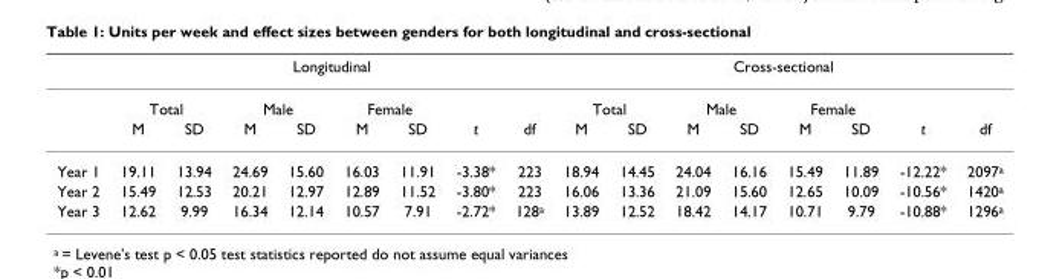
<table><thead><tr><td rowspan="3"></td><td colspan="8">Longitudinal</td><td colspan="8">Cross-sectional</td></tr><tr><td colspan="2">Total</td><td colspan="2">Male</td><td colspan="2">Female</td><td rowspan="2">t</td><td rowspan="2">df</td><td colspan="2">Total</td><td colspan="2">Male</td><td colspan="2">Female</td><td rowspan="2">t</td><td rowspan="2">df</td></tr><tr><td>M</td><td>SD</td><td>M</td><td>SD</td><td>M</td><td>SD</td><td>M</td><td>SD</td><td>M</td><td>SD</td><td>M</td><td>SD</td></tr></thead><tbody><tr><td>Year 1</td><td>19.11</td><td>13.94</td><td>24.69</td><td>15.60</td><td>16.03</td><td>11.91</td><td>-3.38*</td><td>223</td><td>18.94</td><td>14.45</td><td>24.04</td><td>16.16</td><td>15.49</td><td>11.89</td><td>-12.22*</td><td>2097<sup>a</sup></td></tr><tr><td>Year 2</td><td>15.49</td><td>12.53</td><td>20.21</td><td>12.97</td><td>12.89</td><td>11.52</td><td>-3.80*</td><td>223</td><td>16.06</td><td>13.36</td><td>21.09</td><td>15.60</td><td>12.65</td><td>10.09</td><td>-10.56*</td><td>1420<sup>a</sup></td></tr><tr><td>Year 3</td><td>12.62</td><td>9.99</td><td>16.34</td><td>12.14</td><td>10.57</td><td>7.91</td><td>-2.72*</td><td>128<sup>a</sup></td><td>13.89</td><td>12.52</td><td>18.42</td><td>14.17</td><td>10.71</td><td>9.79</td><td>-10.88*</td><td>1296<sup>a</sup></td></tr></tbody></table>